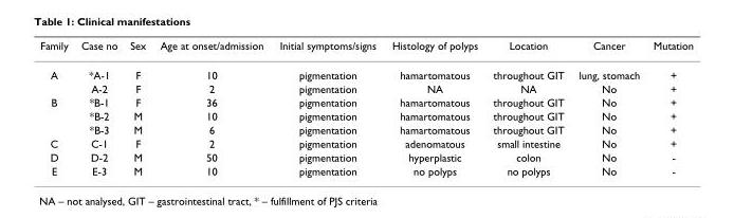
<table><thead><tr><td>Family</td><td>Case no</td><td>Sex</td><td>Age at onset/admission</td><td>Initial symptoms/signs</td><td>Histology of polyps</td><td>Location</td><td>Cancer</td><td>Mutation</td></tr></thead><tbody><tr><td rowspan="2">A</td><td>*A-1</td><td>F</td><td>10</td><td>pigmentation</td><td>hamartomatous</td><td>throughout GIT</td><td>lung, stomach</td><td>+</td></tr><tr><td>A-2</td><td>F</td><td>2</td><td>pigmentation</td><td>NA</td><td>NA</td><td>No</td><td>+</td></tr><tr><td rowspan="3">B</td><td>*B-1</td><td>F</td><td>36</td><td>pigmentation</td><td>hamartomatous</td><td>throughout GIT</td><td>No</td><td>+</td></tr><tr><td>*B-2</td><td>M</td><td>10</td><td>pigmentation</td><td>hamartomatous</td><td>throughout GIT</td><td>No</td><td>+</td></tr><tr><td>*B-3</td><td>M</td><td>6</td><td>pigmentation</td><td>hamartomatous</td><td>throughout GIT</td><td>No</td><td>+</td></tr><tr><td>C</td><td>C-1</td><td>F</td><td>2</td><td>pigmentation</td><td>adenomatous</td><td>small intestine</td><td>No</td><td>+</td></tr><tr><td>D</td><td>D-2</td><td>M</td><td>50</td><td>pigmentation</td><td>hyperplastic</td><td>colon</td><td>No</td><td>-</td></tr><tr><td>E</td><td>E-3</td><td>M</td><td>10</td><td>pigmentation</td><td>no polyps</td><td>no polyps</td><td>No</td><td>-</td></tr></tbody></table>